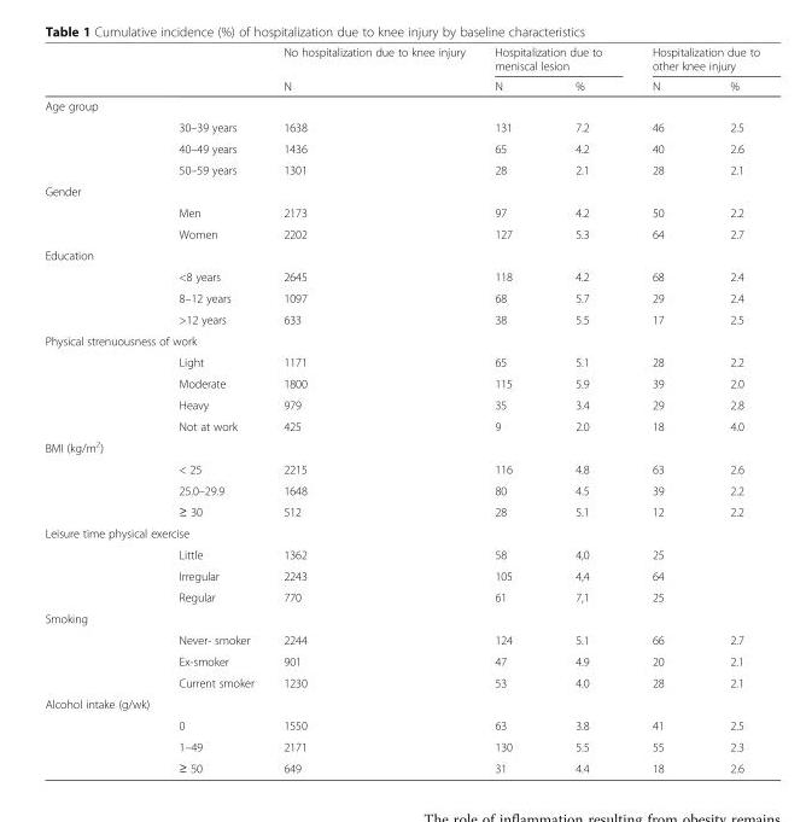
<table><thead><tr><td rowspan="2"></td><td rowspan="2"></td><td rowspan="2">No hospitalization due to knee injury N</td><td colspan="2">Hospitalization due to meniscal lesion</td><td colspan="2">Hospitalization due to other knee injury</td></tr><tr><td>N</td><td>%</td><td>N</td><td>%</td></tr></thead><tbody><tr><td colspan="7">Age group</td></tr><tr><td></td><td>30–39 years</td><td>1638</td><td>131</td><td>7.2</td><td>46</td><td>2.5</td></tr><tr><td></td><td>40–49 years</td><td>1436</td><td>65</td><td>4.2</td><td>40</td><td>2.6</td></tr><tr><td></td><td>50–59 years</td><td>1301</td><td>28</td><td>2.1</td><td>28</td><td>2.1</td></tr><tr><td colspan="7">Gender</td></tr><tr><td></td><td>Men</td><td>2173</td><td>97</td><td>4.2</td><td>50</td><td>2.2</td></tr><tr><td></td><td>Women</td><td>2202</td><td>127</td><td>5.3</td><td>64</td><td>2.7</td></tr><tr><td colspan="7">Education</td></tr><tr><td></td><td>&lt;8 years</td><td>2645</td><td>118</td><td>4.2</td><td>68</td><td>2.4</td></tr><tr><td></td><td>8–12 years</td><td>1097</td><td>68</td><td>5.7</td><td>29</td><td>2.4</td></tr><tr><td></td><td>&gt;12 years</td><td>633</td><td>38</td><td>5.5</td><td>17</td><td>2.5</td></tr><tr><td colspan="7">Physical strenuousness of work</td></tr><tr><td></td><td>Light</td><td>1171</td><td>65</td><td>5.1</td><td>28</td><td>2.2</td></tr><tr><td></td><td>Moderate</td><td>1800</td><td>115</td><td>5.9</td><td>39</td><td>2.0</td></tr><tr><td rowspan="2"></td><td>Heavy</td><td>979</td><td>35</td><td>3.4</td><td>29</td><td>2.8</td></tr><tr><td>Not at work</td><td>425</td><td>9</td><td>2.0</td><td>18</td><td>4.0</td></tr><tr><td colspan="7">BMI (kg/m<sup>2</sup>)</td></tr><tr><td></td><td>&lt; 25</td><td>2215</td><td>116</td><td>4.8</td><td>63</td><td>2.6</td></tr><tr><td></td><td>25.0–29.9</td><td>1648</td><td>80</td><td>4.5</td><td>39</td><td>2.2</td></tr><tr><td></td><td>≥ 30</td><td>512</td><td>28</td><td>5.1</td><td>12</td><td>2.2</td></tr><tr><td colspan="7">Leisure time physical exercise</td></tr><tr><td></td><td>Little</td><td>1362</td><td>58</td><td>4,0</td><td>25</td><td></td></tr><tr><td></td><td>Irregular</td><td>2243</td><td>105</td><td>4,4</td><td>64</td><td></td></tr><tr><td></td><td>Regular</td><td>770</td><td>61</td><td>7,1</td><td>25</td><td></td></tr><tr><td colspan="7">Smoking</td></tr><tr><td></td><td>Never- smoker</td><td>2244</td><td>124</td><td>5.1</td><td>66</td><td>2.7</td></tr><tr><td></td><td>Ex-smoker</td><td>901</td><td>47</td><td>4.9</td><td>20</td><td>2.1</td></tr><tr><td></td><td>Current smoker</td><td>1230</td><td>53</td><td>4.0</td><td>28</td><td>2.1</td></tr><tr><td colspan="7">Alcohol intake (g/wk)</td></tr><tr><td></td><td>0</td><td>1550</td><td>63</td><td>3.8</td><td>41</td><td>2.5</td></tr><tr><td></td><td>1–49</td><td>2171</td><td>130</td><td>5.5</td><td>55</td><td>2.3</td></tr><tr><td></td><td>≥ 50</td><td>649</td><td>31</td><td>4.4</td><td>18</td><td>2.6</td></tr></tbody></table>